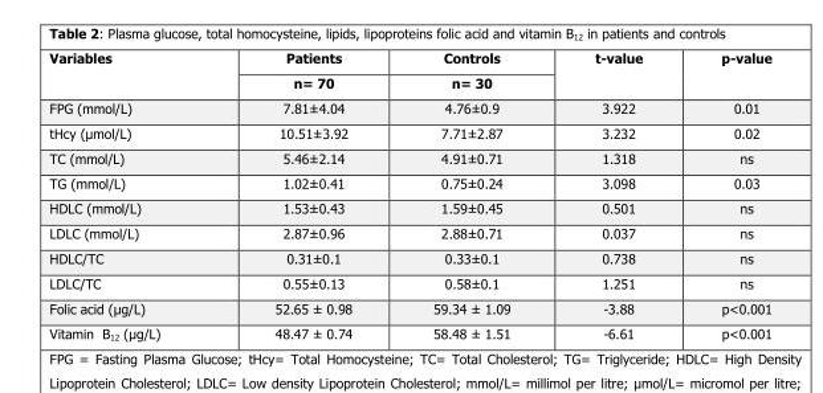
<table><thead><tr><td rowspan="2">Variables</td><td rowspan="2">Patients n= 70</td><td rowspan="2">Controls n= 30</td><td rowspan="2">t-value</td><td rowspan="2">p-value</td></tr><tr></tr></thead><tbody><tr><td>FPG (mmol/L)</td><td>7.81±4.04</td><td>4.76±0.9</td><td>3.922</td><td>0.01</td></tr><tr><td>tHcy (µmol/L)</td><td>10.51±3.92</td><td>7.71±2.87</td><td>3.232</td><td>0.02</td></tr><tr><td>TC (mmol/L)</td><td>5.46±2.14</td><td>4.91±0.71</td><td>1.318</td><td>ns</td></tr><tr><td>TG (mmol/L)</td><td>1.02±0.41</td><td>0.75±0.24</td><td>3.098</td><td>0.03</td></tr><tr><td>HDLC (mmol/L)</td><td>1.53±0.43</td><td>1.59±0.45</td><td>0.501</td><td>ns</td></tr><tr><td>LDLC (mmol/L)</td><td>2.87±0.96</td><td>2.88±0.71</td><td>0.037</td><td>ns</td></tr><tr><td>HDLC/TC</td><td>0.31±0.1</td><td>0.33±0.1</td><td>0.738</td><td>ns</td></tr><tr><td>LDLC/TC</td><td>0.55±0.13</td><td>0.58±0.1</td><td>1.251</td><td>ns</td></tr><tr><td>Folic acid (µg/L)</td><td>52.65 ± 0.98</td><td>59.34 ± 1.09</td><td>-3.88</td><td>p&lt;0.001</td></tr><tr><td>Vitamin B<sub>12</sub> (µg/L)</td><td>48.47 ± 0.74</td><td>58.48 ± 1.51</td><td>-6.61</td><td>p&lt;0.001</td></tr></tbody></table>